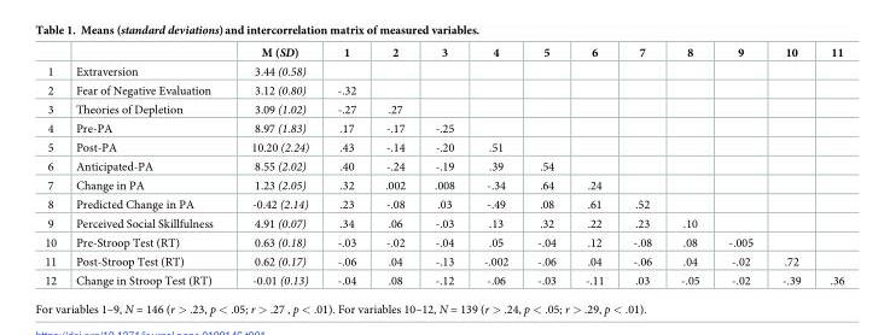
<table><thead><tr><td></td><td></td><td>M (SD)</td><td>1</td><td>2</td><td>3</td><td>4</td><td>5</td><td>6</td><td>7</td><td>8</td><td>9</td><td>10</td><td>11</td></tr></thead><tbody><tr><td>1</td><td>Extraversion</td><td>3.44 (0.58)</td><td></td><td></td><td></td><td></td><td></td><td></td><td></td><td></td><td></td><td></td><td></td></tr><tr><td>2</td><td>Fear of Negative Evaluation</td><td>3.12 (0.80)</td><td>-.32</td><td></td><td></td><td></td><td></td><td></td><td></td><td></td><td></td><td></td><td></td></tr><tr><td>3</td><td>Theories of Depletion</td><td>3.09 (1.02)</td><td>-.27</td><td>.27</td><td></td><td></td><td></td><td></td><td></td><td></td><td></td><td></td><td></td></tr><tr><td>4</td><td>Pre-PA</td><td>8.97 (1.83)</td><td>.17</td><td>-.17</td><td>-.25</td><td></td><td></td><td></td><td></td><td></td><td></td><td></td><td></td></tr><tr><td>5</td><td>Post-PA</td><td>10.20 (2.24)</td><td>.43</td><td>-.14</td><td>-.20</td><td>.51</td><td></td><td></td><td></td><td></td><td></td><td></td><td></td></tr><tr><td>6</td><td>Anticipated-PA</td><td>8.55 (2.02)</td><td>.40</td><td>-.24</td><td>-.19</td><td>.39</td><td>.54</td><td></td><td></td><td></td><td></td><td></td><td></td></tr><tr><td>7</td><td>Change in PA</td><td>1.23 (2.05)</td><td>.32</td><td>.002</td><td>.008</td><td>-.34</td><td>.64</td><td>.24</td><td></td><td></td><td></td><td></td><td></td></tr><tr><td>8</td><td>Predicted Change in PA</td><td>-0.42 (2.14)</td><td>.23</td><td>-.08</td><td>.03</td><td>-.49</td><td>.08</td><td>.61</td><td>.52</td><td></td><td></td><td></td><td></td></tr><tr><td>9</td><td>Perceived Social Skillfulness</td><td>4.91 (0.07)</td><td>.34</td><td>.06</td><td>-.03</td><td>.13</td><td>.32</td><td>.22</td><td>.23</td><td>.10</td><td></td><td></td><td></td></tr><tr><td>10</td><td>Pre-Stroop Test (RT)</td><td>0.63 (0.18)</td><td>-.03</td><td>-.02</td><td>-.04</td><td>.05</td><td>-.04</td><td>.12</td><td>-.08</td><td>.08</td><td>-.005</td><td></td><td></td></tr><tr><td>11</td><td>Post-Stroop Test (RT)</td><td>0.62 (0.17)</td><td>-.06</td><td>.04</td><td>-.13</td><td>-.002</td><td>-.06</td><td>.04</td><td>-.06</td><td>.04</td><td>-.02</td><td>.72</td><td></td></tr><tr><td>12</td><td>Change in Stroop Test (RT)</td><td>-0.01 (0.13)</td><td>-.04</td><td>.08</td><td>-.12</td><td>-.06</td><td>-.03</td><td>-.11</td><td>.03</td><td>-.05</td><td>-.02</td><td>-.39</td><td>.36</td></tr></tbody></table>